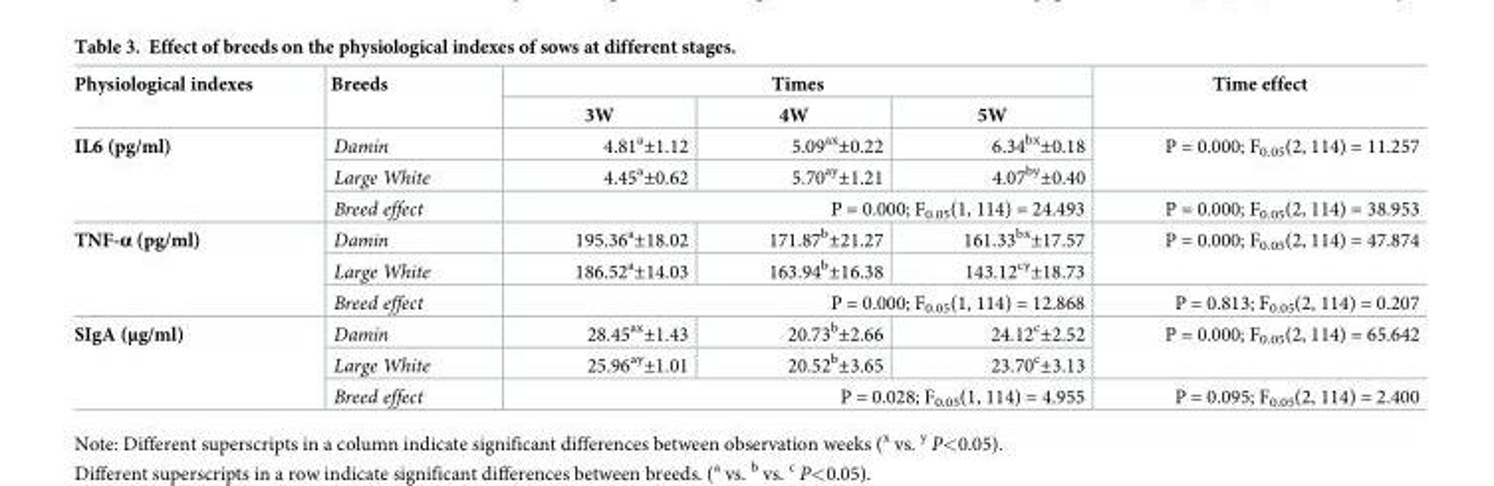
<table><thead><tr><td rowspan="2">Physiological indexes</td><td rowspan="2">Breeds</td><td colspan="3">Times</td><td rowspan="2">Time effect</td></tr><tr><td>3W</td><td>4W</td><td>5W</td></tr></thead><tbody><tr><td rowspan="3">IL6 (pg/ml)</td><td>Damin</td><td>4.81<sup>a</sup>±1.12</td><td>5.09<sup>ax</sup>±0.22</td><td>6.34<sup>bx</sup>±0.18</td><td rowspan="2">P = 0.000; F<sub>0.05</sub>(2, 114) = 11.257</td></tr><tr><td>Large White</td><td>4.45<sup>a</sup>±0.62</td><td>5.70<sup>ay</sup>±1.21</td><td>4.07<sup>by</sup>±0.40</td></tr><tr><td>Breed effect</td><td colspan="3">P = 0.000; F<sub>0.05</sub>(1, 114) = 24.493</td><td>P = 0.000; F<sub>0.05</sub>(2, 114) = 38.953</td></tr><tr><td rowspan="3">TNF-α (pg/ml)</td><td>Damin</td><td>195.36<sup>a</sup>±18.02</td><td>171.87<sup>b</sup>±21.27</td><td>161.33<sup>bx</sup>±17.57</td><td rowspan="2">P = 0.000; F<sub>0.05</sub>(2, 114) = 47.874</td></tr><tr><td>Large White</td><td>186.52<sup>a</sup>±14.03</td><td>163.94<sup>b</sup>±16.38</td><td>143.12<sup>cy</sup>±18.73</td></tr><tr><td>Breed effect</td><td colspan="3">P = 0.000; F<sub>0.05</sub>(1, 114) = 12.868</td><td>P = 0.813; F<sub>0.05</sub>(2, 114) = 0.207</td></tr><tr><td rowspan="3">SIgA (μg/ml)</td><td>Damin</td><td>28.45<sup>ax</sup>±1.43</td><td>20.73<sup>b</sup>±2.66</td><td>24.12<sup>c</sup>±2.52</td><td rowspan="2">P = 0.000; F<sub>0.05</sub>(2, 114) = 65.642</td></tr><tr><td>Large White</td><td>25.96<sup>ay</sup>±1.01</td><td>20.52<sup>b</sup>±3.65</td><td>23.70<sup>c</sup>±3.13</td></tr><tr><td>Breed effect</td><td colspan="3">P = 0.028; F<sub>0.05</sub>(1, 114) = 4.955</td><td>P = 0.095; F<sub>0.05</sub>(2, 114) = 2.400</td></tr></tbody></table>